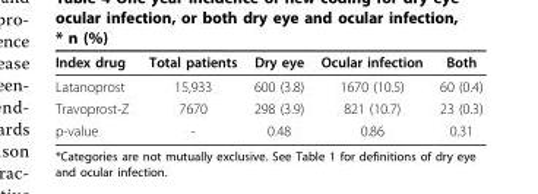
<table><thead><tr><td>Index drug</td><td>Total patients</td><td>Dry eye</td><td>Ocular infection</td><td>Both</td></tr></thead><tbody><tr><td>Latanoprost</td><td>15,933</td><td>600 (3.8)</td><td>1670 (10.5)</td><td>60 (0.4)</td></tr><tr><td>Travoprost-Z</td><td>7670</td><td>298 (3.9)</td><td>821 (10.7)</td><td>23 (0.3)</td></tr><tr><td>p-value</td><td>-</td><td>0.48</td><td>0.86</td><td>0.31</td></tr></tbody></table>